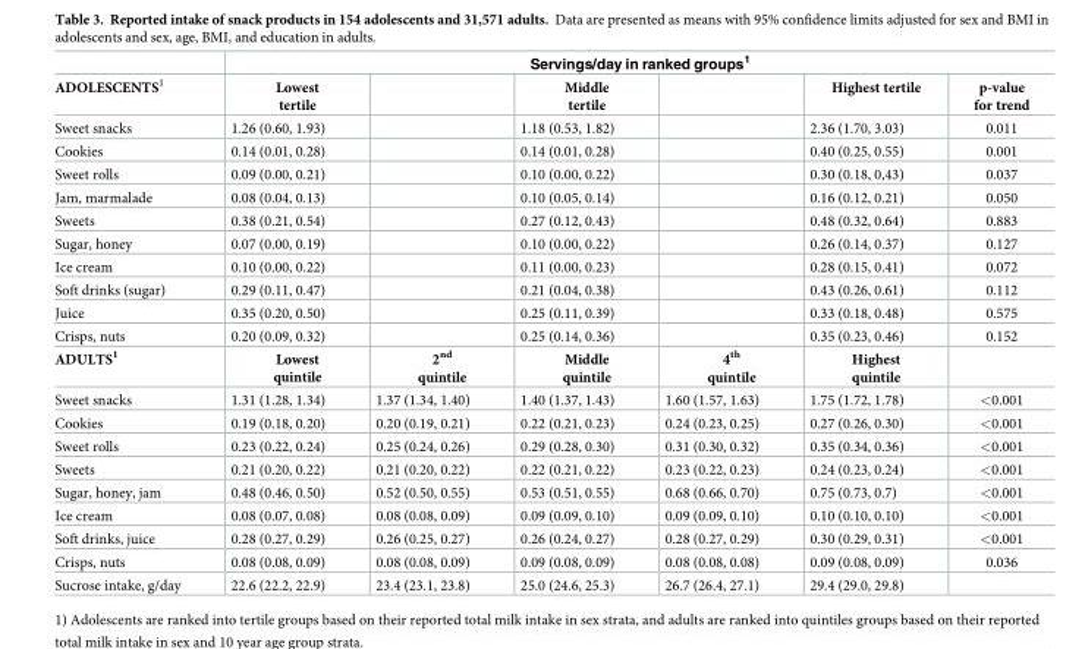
<table><thead><tr><td rowspan="2">ADOLESCENTS<sup>1</sup></td><td colspan="6">Servings/day in ranked groups<sup>1</sup></td></tr><tr><td>Lowest tertile</td><td></td><td>Middle tertile</td><td></td><td>Highest tertile</td><td>p-value for trend</td></tr></thead><tbody><tr><td>Sweet snacks</td><td>1.26 (0.60, 1.93)</td><td></td><td>1.18 (0.53, 1.82)</td><td></td><td>2.36 (1.70, 3.03)</td><td>0.011</td></tr><tr><td>Cookies</td><td>0.14 (0.01, 0.28)</td><td></td><td>0.14 (0.01, 0.28)</td><td></td><td>0.40 (0.25, 0.55)</td><td>0.001</td></tr><tr><td>Sweet rolls</td><td>0.09 (0.00, 0.21)</td><td></td><td>0.10 (0.00, 0.22)</td><td></td><td>0.30 (0.18, 0,43)</td><td>0.037</td></tr><tr><td>Jam, marmalade</td><td>0.08 (0.04, 0.13)</td><td></td><td>0.10 (0.05, 0.14)</td><td></td><td>0.16 (0.12, 0.21)</td><td>0.050</td></tr><tr><td>Sweets</td><td>0.38 (0.21, 0.54)</td><td></td><td>0.27 (0.12, 0.43)</td><td></td><td>0.48 (0.32, 0.64)</td><td>0.883</td></tr><tr><td>Sugar, honey</td><td>0.07 (0.00, 0.19)</td><td></td><td>0.10 (0.00, 0.22)</td><td></td><td>0.26 (0.14, 0.37)</td><td>0.127</td></tr><tr><td>Ice cream</td><td>0.10 (0.00, 0.22)</td><td></td><td>0.11 (0.00, 0.23)</td><td></td><td>0.28 (0.15, 0.41)</td><td>0.072</td></tr><tr><td>Soft drinks (sugar)</td><td>0.29 (0.11, 0.47)</td><td></td><td>0.21 (0.04, 0.38)</td><td></td><td>0.43 (0.26, 0.61)</td><td>0.112</td></tr><tr><td>Juice</td><td>0.35 (0.20, 0.50)</td><td></td><td>0.25 (0.11, 0.39)</td><td></td><td>0.33 (0.18, 0.48)</td><td>0.575</td></tr><tr><td>Crisps, nuts</td><td>0.20 (0.09, 0.32)</td><td></td><td>0.25 (0.14, 0.36)</td><td></td><td>0.35 (0.23, 0.46)</td><td>0.152</td></tr><tr><td>ADULTS<sup>1</sup></td><td>Lowest quintile</td><td>2<sup>nd</sup> quintile</td><td>Middle quintile</td><td>4<sup>th</sup> quintile</td><td>Highest quintile</td><td></td></tr><tr><td>Sweet snacks</td><td>1.31 (1.28, 1.34)</td><td>1.37 (1.34, 1.40)</td><td>1.40 (1.37, 1.43)</td><td>1.60 (1.57, 1.63)</td><td>1.75 (1.72, 1.78)</td><td>&lt;0.001</td></tr><tr><td>Cookies</td><td>0.19 (0.18, 0.20)</td><td>0.20 (0.19, 0.21)</td><td>0.22 (0.21, 0.23)</td><td>0.24 (0.23, 0.25)</td><td>0.27 (0.26, 0.30)</td><td>&lt;0.001</td></tr><tr><td>Sweet rolls</td><td>0.23 (0.22, 0.24)</td><td>0.25 (0.24, 0.26)</td><td>0.29 (0.28, 0.30)</td><td>0.31 (0.30, 0.32)</td><td>0.35 (0.34, 0.36)</td><td>&lt;0.001</td></tr><tr><td>Sweets</td><td>0.21 (0.20, 0.22)</td><td>0.21 (0.20, 0.22)</td><td>0.22 (0.21, 0.22)</td><td>0.23 (0.22, 0.23)</td><td>0.24 (0.23, 0.24)</td><td>&lt;0.001</td></tr><tr><td>Sugar, honey, jam</td><td>0.48 (0.46, 0.50)</td><td>0.52 (0.50, 0.55)</td><td>0.53 (0.51, 0.55)</td><td>0.68 (0.66, 0.70)</td><td>0.75 (0.73, 0.7)</td><td>&lt;0.001</td></tr><tr><td>Ice cream</td><td>0.08 (0.07, 0.08)</td><td>0.08 (0.08, 0.09)</td><td>0.09 (0.09, 0.10)</td><td>0.09 (0.09, 0.10)</td><td>0.10 (0.10, 0.10)</td><td>&lt;0.001</td></tr><tr><td>Soft drinks, juice</td><td>0.28 (0.27, 0.29)</td><td>0.26 (0.25, 0.27)</td><td>0.26 (0.24, 0.27)</td><td>0.28 (0.27, 0.29)</td><td>0.30 (0.29, 0.31)</td><td>&lt;0.001</td></tr><tr><td>Crisps, nuts</td><td>0.08 (0.08, 0.09)</td><td>0.08 (0.08, 0.09)</td><td>0.09 (0.08, 0.09)</td><td>0.08 (0.08, 0.08)</td><td>0.09 (0.08, 0.09)</td><td>0.036</td></tr><tr><td>Sucrose intake, g/day</td><td>22.6 (22.2, 22.9)</td><td>23.4 (23.1, 23.8)</td><td>25.0 (24.6, 25.3)</td><td>26.7 (26.4, 27.1)</td><td>29.4 (29.0, 29.8)</td><td></td></tr></tbody></table>